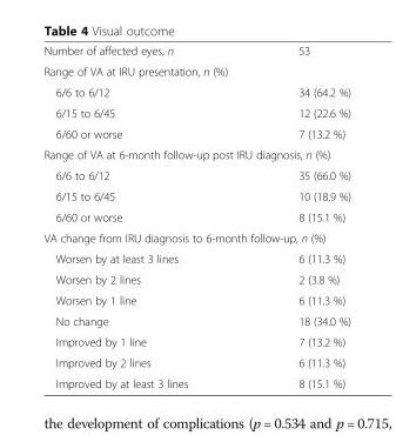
<table><tbody><tr><td>Number of affected eyes, n</td><td>53</td></tr><tr><td colspan="2">Range of VA at IRU presentation, n (%)</td></tr><tr><td>6/6 to 6/12</td><td>34 (64.2 %)</td></tr><tr><td>6/15 to 6/45</td><td>12 (22.6 %)</td></tr><tr><td>6/60 or worse</td><td>7 (13.2 %)</td></tr><tr><td colspan="2">Range of VA at 6-month follow-up post IRU diagnosis, n (%)</td></tr><tr><td>6/6 to 6/12</td><td>35 (66.0 %)</td></tr><tr><td>6/15 to 6/45</td><td>10 (18.9 %)</td></tr><tr><td>6/60 or worse</td><td>8 (15.1 %)</td></tr><tr><td colspan="2">VA change from IRU diagnosis to 6-month follow-up, n (%)</td></tr><tr><td>Worsen by at least 3 lines</td><td>6 (11.3 %)</td></tr><tr><td>Worsen by 2 lines</td><td>2 (3.8 %)</td></tr><tr><td>Worsen by 1 line</td><td>6 (11.3 %)</td></tr><tr><td>No change</td><td>18 (34.0 %)</td></tr><tr><td>Improved by 1 line</td><td>7 (13.2 %)</td></tr><tr><td>Improved by 2 lines</td><td>6 (11.3 %)</td></tr><tr><td>Improved by at least 3 lines</td><td>8 (15.1 %)</td></tr></tbody></table>